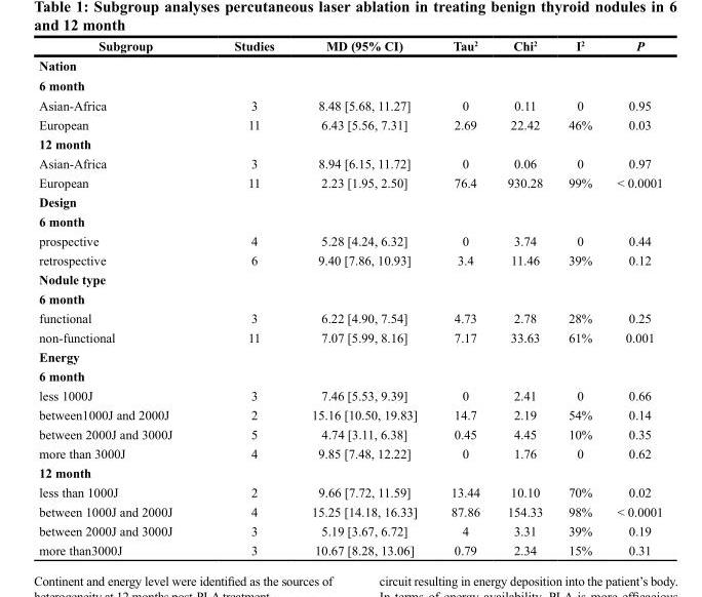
<table><thead><tr><td>Subgroup</td><td>Studies</td><td>MD (95% CI)</td><td>Tau<sup>2</sup></td><td>Chi<sup>2</sup></td><td>I<sup>2</sup></td><td>P</td></tr></thead><tbody><tr><td colspan="7">Nation</td></tr><tr><td colspan="7">6 month</td></tr><tr><td>Asian-Africa</td><td>3</td><td>8.48 [5.68, 11.27]</td><td>0</td><td>0.11</td><td>0</td><td>0.95</td></tr><tr><td>European</td><td>11</td><td>6.43 [5.56, 7.31]</td><td>2.69</td><td>22.42</td><td>46%</td><td>0.03</td></tr><tr><td colspan="7">12 month</td></tr><tr><td>Asian-Africa</td><td>3</td><td>8.94 [6.15, 11.72]</td><td>0</td><td>0.06</td><td>0</td><td>0.97</td></tr><tr><td>European</td><td>11</td><td>2.23 [1.95, 2.50]</td><td>76.4</td><td>930.28</td><td>99%</td><td>&lt; 0.0001</td></tr><tr><td colspan="7">Design</td></tr><tr><td colspan="7">6 month</td></tr><tr><td>prospective</td><td>4</td><td>5.28 [4.24, 6.32]</td><td>0</td><td>3.74</td><td>0</td><td>0.44</td></tr><tr><td>retrospective</td><td>6</td><td>9.40 [7.86, 10.93]</td><td>3.4</td><td>11.46</td><td>39%</td><td>0.12</td></tr><tr><td colspan="7">Nodule type</td></tr><tr><td colspan="7">6 month</td></tr><tr><td>functional</td><td>3</td><td>6.22 [4.90, 7.54]</td><td>4.73</td><td>2.78</td><td>28%</td><td>0.25</td></tr><tr><td>non-functional</td><td>11</td><td>7.07 [5.99, 8.16]</td><td>7.17</td><td>33.63</td><td>61%</td><td>0.001</td></tr><tr><td colspan="7">Energy</td></tr><tr><td colspan="7">6 month</td></tr><tr><td>less 1000J</td><td>3</td><td>7.46 [5.53, 9.39]</td><td>0</td><td>2.41</td><td>0</td><td>0.66</td></tr><tr><td>between1000J and 2000J</td><td>2</td><td>15.16 [10.50, 19.83]</td><td>14.7</td><td>2.19</td><td>54%</td><td>0.14</td></tr><tr><td>between 2000J and 3000J</td><td>5</td><td>4.74 [3.11, 6.38]</td><td>0.45</td><td>4.45</td><td>10%</td><td>0.35</td></tr><tr><td>more than 3000J</td><td>4</td><td>9.85 [7.48, 12.22]</td><td>0</td><td>1.76</td><td>0</td><td>0.62</td></tr><tr><td colspan="7">12 month</td></tr><tr><td>less than 1000J</td><td>2</td><td>9.66 [7.72, 11.59]</td><td>13.44</td><td>10.10</td><td>70%</td><td>0.02</td></tr><tr><td>between 1000J and 2000J</td><td>4</td><td>15.25 [14.18, 16.33]</td><td>87.86</td><td>154.33</td><td>98%</td><td>&lt; 0.0001</td></tr><tr><td>between 2000J and 3000J</td><td>3</td><td>5.19 [3.67, 6.72]</td><td>4</td><td>3.31</td><td>39%</td><td>0.19</td></tr><tr><td>more than3000J</td><td>3</td><td>10.67 [8.28, 13.06]</td><td>0.79</td><td>2.34</td><td>15%</td><td>0.31</td></tr></tbody></table>